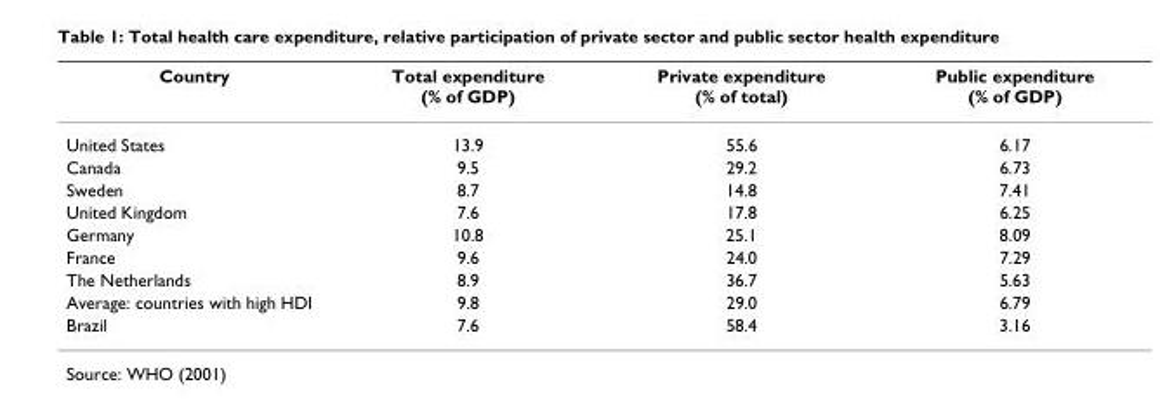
<table><thead><tr><td>Country</td><td>Total expenditure (% of GDP)</td><td>Private expenditure (% of total)</td><td>Public expenditure (% of GDP)</td></tr></thead><tbody><tr><td>United States</td><td>13.9</td><td>55.6</td><td>6.17</td></tr><tr><td>Canada</td><td>9.5</td><td>29.2</td><td>6.73</td></tr><tr><td>Sweden</td><td>8.7</td><td>14.8</td><td>7.41</td></tr><tr><td>United Kingdom</td><td>7.6</td><td>17.8</td><td>6.25</td></tr><tr><td>Germany</td><td>10.8</td><td>25.1</td><td>8.09</td></tr><tr><td>France</td><td>9.6</td><td>24.0</td><td>7.29</td></tr><tr><td>The Netherlands</td><td>8.9</td><td>36.7</td><td>5.63</td></tr><tr><td>Average: countries with high HDI</td><td>9.8</td><td>29.0</td><td>6.79</td></tr><tr><td>Brazil</td><td>7.6</td><td>58.4</td><td>3.16</td></tr></tbody></table>